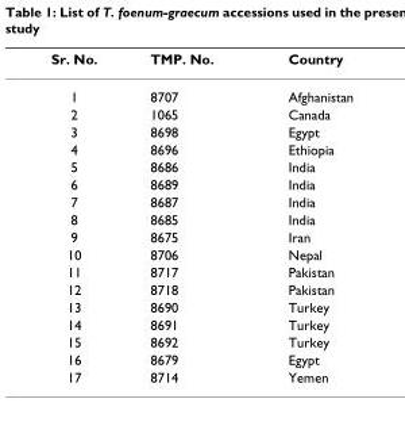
<table><thead><tr><td>Sr. No.</td><td>TMP. No.</td><td>Country</td></tr></thead><tbody><tr><td>1</td><td>8707</td><td>Afghanistan</td></tr><tr><td>2</td><td>1065</td><td>Canada</td></tr><tr><td>3</td><td>8698</td><td>Egypt</td></tr><tr><td>4</td><td>8696</td><td>Ethiopia</td></tr><tr><td>5</td><td>8686</td><td>India</td></tr><tr><td>6</td><td>8689</td><td>India</td></tr><tr><td>7</td><td>8687</td><td>India</td></tr><tr><td>8</td><td>8685</td><td>India</td></tr><tr><td>9</td><td>8675</td><td>Iran</td></tr><tr><td>10</td><td>8706</td><td>Nepal</td></tr><tr><td>11</td><td>8717</td><td>Pakistan</td></tr><tr><td>12</td><td>8718</td><td>Pakistan</td></tr><tr><td>13</td><td>8690</td><td>Turkey</td></tr><tr><td>14</td><td>8691</td><td>Turkey</td></tr><tr><td>15</td><td>8692</td><td>Turkey</td></tr><tr><td>16</td><td>8679</td><td>Egypt</td></tr><tr><td>17</td><td>8714</td><td>Yemen</td></tr></tbody></table>